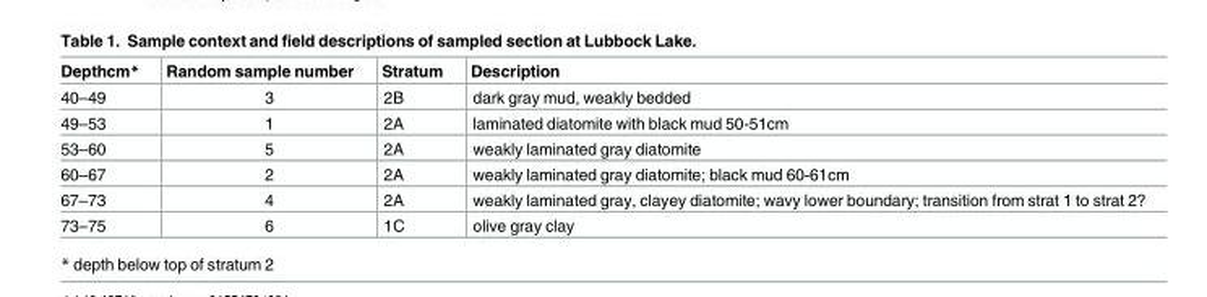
<table><thead><tr><td>Depthcm*</td><td>Random sample number</td><td>Stratum</td><td>Description</td></tr></thead><tbody><tr><td>40–49</td><td>3</td><td>2B</td><td>dark gray mud, weakly bedded</td></tr><tr><td>49–53</td><td>1</td><td>2A</td><td>laminated diatomite with black mud 50-51cm</td></tr><tr><td>53–60</td><td>5</td><td>2A</td><td>weakly laminated gray diatomite</td></tr><tr><td>60–67</td><td>2</td><td>2A</td><td>weakly laminated gray diatomite; black mud 60-61cm</td></tr><tr><td>67–73</td><td>4</td><td>2A</td><td>weakly laminated gray, clayey diatomite; wavy lower boundary; transition from strat 1 to strat 2?</td></tr><tr><td>73–75</td><td>6</td><td>1C</td><td>olive gray clay</td></tr></tbody></table>